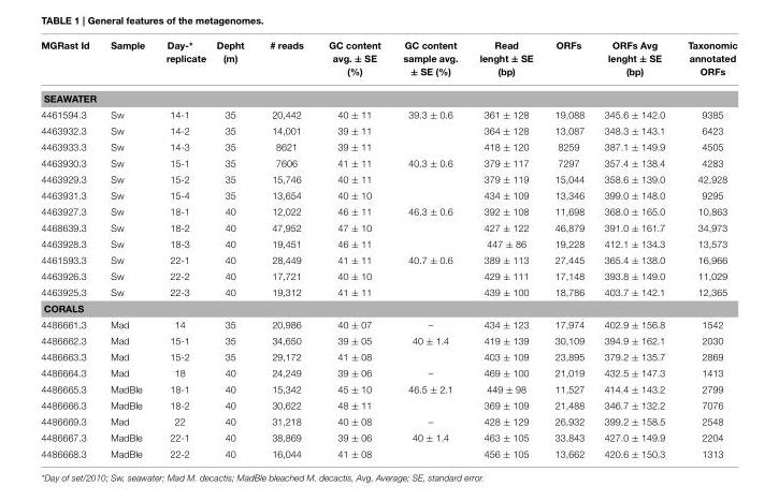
<table><thead><tr><td>MGRast Id</td><td>Sample</td><td>Day-* replicate</td><td>Depht (m)</td><td># reads</td><td>GC content avg. ± SE (%)</td><td>GC content sample avg. ± SE (%)</td><td>Read lenght ± SE (bp)</td><td>ORFs</td><td>ORFs Avg lenght ± SE (bp)</td><td>Taxonomic annotated ORFs</td></tr></thead><tbody><tr><td colspan="11">SEAWATER</td></tr><tr><td>4461594.3</td><td>Sw</td><td>14-1</td><td>35</td><td>20,442</td><td>40 ± 11</td><td>39.3 ± 0.6</td><td>361 ± 128</td><td>19,088</td><td>345.6 ± 142.0</td><td>9385</td></tr><tr><td>4463932.3</td><td>Sw</td><td>14-2</td><td>35</td><td>14,001</td><td>39 ± 11</td><td></td><td>364 ± 128</td><td>13,087</td><td>348.3 ± 143.1</td><td>6423</td></tr><tr><td>4463933.3</td><td>Sw</td><td>14-3</td><td>35</td><td>8621</td><td>39 ± 11</td><td></td><td>418 ± 120</td><td>8259</td><td>387.1 ± 149.9</td><td>4505</td></tr><tr><td>4463930.3</td><td>Sw</td><td>15-1</td><td>35</td><td>7606</td><td>41 ± 11</td><td>40.3 ± 0.6</td><td>379 ± 117</td><td>7297</td><td>357.4 ± 138.4</td><td>4283</td></tr><tr><td>4463929.3</td><td>Sw</td><td>15-2</td><td>35</td><td>15,746</td><td>40 ± 11</td><td></td><td>379 ± 119</td><td>15,044</td><td>358.6 ± 139.0</td><td>42,928</td></tr><tr><td>4463931.3</td><td>Sw</td><td>15-4</td><td>35</td><td>13,654</td><td>40 ± 10</td><td></td><td>434 ± 109</td><td>13,346</td><td>399.0 ± 148.0</td><td>9295</td></tr><tr><td>4463927.3</td><td>Sw</td><td>18-1</td><td>40</td><td>12,022</td><td>46 ± 11</td><td>46.3 ± 0.6</td><td>392 ± 108</td><td>11,698</td><td>368.0 ± 165.0</td><td>10,863</td></tr><tr><td>4468639.3</td><td>Sw</td><td>18-2</td><td>40</td><td>47,952</td><td>47 ± 10</td><td></td><td>427 ± 122</td><td>46,879</td><td>391.0 ± 161.7</td><td>34,973</td></tr><tr><td>4463928.3</td><td>Sw</td><td>18-3</td><td>40</td><td>19,451</td><td>46 ± 11</td><td></td><td>447 ± 86</td><td>19,228</td><td>412.1 ± 134.3</td><td>13,573</td></tr><tr><td>4461593.3</td><td>Sw</td><td>22-1</td><td>40</td><td>28,449</td><td>41 ± 11</td><td>40.7 ± 0.6</td><td>389 ± 113</td><td>27,445</td><td>365.4 ± 138.0</td><td>16,966</td></tr><tr><td>4463926.3</td><td>Sw</td><td>22-2</td><td>40</td><td>17,721</td><td>40 ± 10</td><td></td><td>429 ± 111</td><td>17,148</td><td>393.8 ± 149.0</td><td>11,029</td></tr><tr><td>4463925.3</td><td>Sw</td><td>22-3</td><td>40</td><td>19,312</td><td>41 ± 11</td><td></td><td>439 ± 100</td><td>18,786</td><td>403.7 ± 142.1</td><td>12,365</td></tr><tr><td colspan="11">CORALS</td></tr><tr><td>4486661.3</td><td>Mad</td><td>14</td><td>35</td><td>20,986</td><td>40 ± 07</td><td>–</td><td>434 ± 123</td><td>17,974</td><td>402.9 ± 156.8</td><td>1542</td></tr><tr><td>4486662.3</td><td>Mad</td><td>15-1</td><td>35</td><td>34,650</td><td>39 ± 05</td><td>40 ± 1.4</td><td>419 ± 139</td><td>30,109</td><td>394.9 ± 162.1</td><td>2030</td></tr><tr><td>4486663.3</td><td>Mad</td><td>15-2</td><td>35</td><td>29,172</td><td>41 ± 08</td><td></td><td>403 ± 109</td><td>23,895</td><td>379.2 ± 135.7</td><td>2869</td></tr><tr><td>4486664.3</td><td>Mad</td><td>18</td><td>40</td><td>24,249</td><td>39 ± 06</td><td>–</td><td>469 ± 100</td><td>21,019</td><td>432.5 ± 147.3</td><td>1413</td></tr><tr><td>4486665.3</td><td>MadBle</td><td>18-1</td><td>40</td><td>15,342</td><td>45 ± 10</td><td>46.5 ± 2.1</td><td>449 ± 98</td><td>11,527</td><td>414.4 ± 143.2</td><td>2799</td></tr><tr><td>4486666.3</td><td>MadBle</td><td>18-2</td><td>40</td><td>30,622</td><td>48 ± 11</td><td></td><td>369 ± 109</td><td>21,488</td><td>346.7 ± 132.2</td><td>7076</td></tr><tr><td>4486669.3</td><td>Mad</td><td>22</td><td>40</td><td>31,218</td><td>40 ± 08</td><td>–</td><td>428 ± 129</td><td>26,932</td><td>399.2 ± 158.5</td><td>2548</td></tr><tr><td>4486667.3</td><td>MadBle</td><td>22-1</td><td>40</td><td>38,869</td><td>39 ± 06</td><td>40 ± 1.4</td><td>463 ± 105</td><td>33,843</td><td>427.0 ± 149.9</td><td>2204</td></tr><tr><td>4486668.3</td><td>MadBle</td><td>22-2</td><td>40</td><td>16,044</td><td>41 ± 08</td><td></td><td>456 ± 105</td><td>13,662</td><td>420.6 ± 150.3</td><td>1313</td></tr></tbody></table>